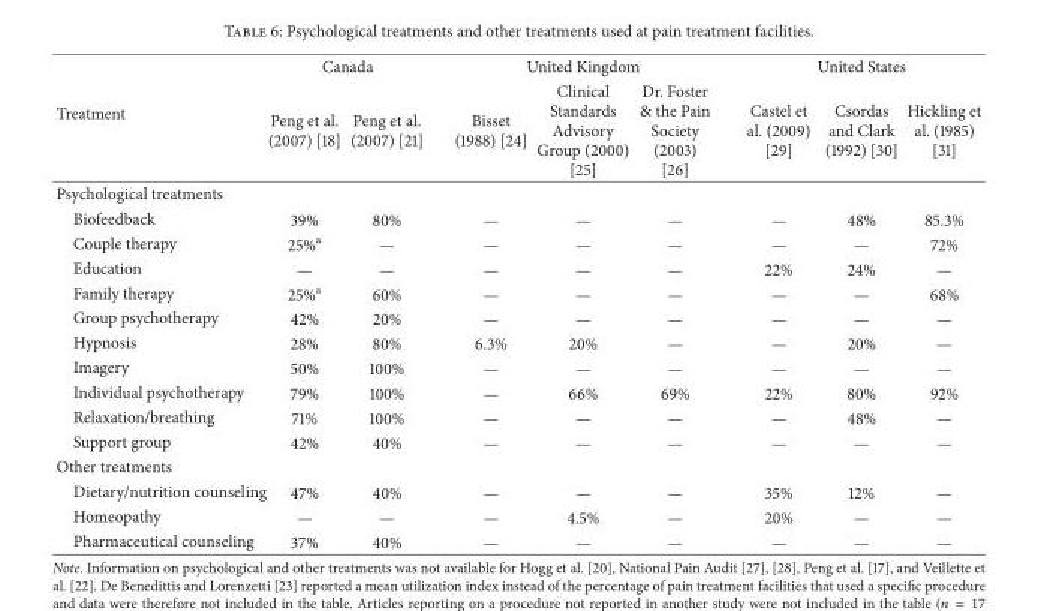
<table><thead><tr><td rowspan="2">Treatment</td><td colspan="2">Canada</td><td colspan="3">United Kingdom</td><td colspan="3">United States</td></tr><tr><td>Peng et al. (2007) [18]</td><td>Peng et al. (2007) [21]</td><td>Bisset (1988) [24]</td><td>Clinical Standards Advisory Group (2000) [25]</td><td>Dr. Foster &amp; the Pain Society (2003) [26]</td><td>Castel et al. (2009) [29]</td><td>Csordas and Clark (1992) [30]</td><td>Hickling et al. (1985) [31]</td></tr></thead><tbody><tr><td colspan="9">Psychological treatments</td></tr><tr><td>Biofeedback</td><td>39%</td><td>80%</td><td>—</td><td>—</td><td>—</td><td>—</td><td>48%</td><td>85.3%</td></tr><tr><td>Couple therapy</td><td>25%<sup>a</sup></td><td>—</td><td>—</td><td>—</td><td>—</td><td>—</td><td>—</td><td>72%</td></tr><tr><td>Education</td><td>—</td><td>—</td><td>—</td><td>—</td><td>—</td><td>22%</td><td>24%</td><td>—</td></tr><tr><td>Family therapy</td><td>25%<sup>a</sup></td><td>60%</td><td>—</td><td>—</td><td>—</td><td>—</td><td>—</td><td>68%</td></tr><tr><td>Group psychotherapy</td><td>42%</td><td>20%</td><td>—</td><td>—</td><td>—</td><td>—</td><td>—</td><td>—</td></tr><tr><td>Hypnosis</td><td>28%</td><td>80%</td><td>6.3%</td><td>20%</td><td>—</td><td>—</td><td>20%</td><td>—</td></tr><tr><td>Imagery</td><td>50%</td><td>100%</td><td>—</td><td>—</td><td>—</td><td>—</td><td>—</td><td>—</td></tr><tr><td>Individual psychotherapy</td><td>79%</td><td>100%</td><td>—</td><td>66%</td><td>69%</td><td>22%</td><td>80%</td><td>92%</td></tr><tr><td>Relaxation/breathing</td><td>71%</td><td>100%</td><td>—</td><td>—</td><td>—</td><td>—</td><td>48%</td><td>—</td></tr><tr><td>Support group</td><td>42%</td><td>40%</td><td>—</td><td>—</td><td>—</td><td>—</td><td>—</td><td>—</td></tr><tr><td colspan="9">Other treatments</td></tr><tr><td>Dietary/nutrition counseling</td><td>47%</td><td>40%</td><td>—</td><td>—</td><td>—</td><td>35%</td><td>12%</td><td>—</td></tr><tr><td>Homeopathy</td><td>—</td><td>—</td><td>—</td><td>4.5%</td><td>—</td><td>20%</td><td>—</td><td>—</td></tr><tr><td>Pharmaceutical counseling</td><td>37%</td><td>40%</td><td>—</td><td>—</td><td>—</td><td>—</td><td>—</td><td>—</td></tr></tbody></table>